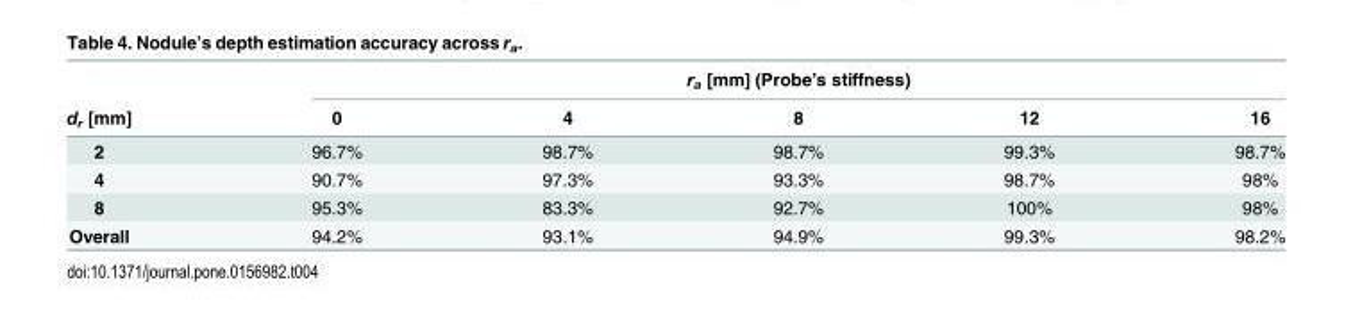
<table><thead><tr><td rowspan="2">d<sub>r</sub> [mm]</td><td colspan="5">r<sub>a</sub> [mm] (Probe’s stiffness)</td></tr><tr><td>0</td><td>4</td><td>8</td><td>12</td><td>16</td></tr></thead><tbody><tr><td>2</td><td>96.7%</td><td>98.7%</td><td>98.7%</td><td>99.3%</td><td>98.7%</td></tr><tr><td>4</td><td>90.7%</td><td>97.3%</td><td>93.3%</td><td>98.7%</td><td>98%</td></tr><tr><td>8</td><td>95.3%</td><td>83.3%</td><td>92.7%</td><td>100%</td><td>98%</td></tr><tr><td>Overall</td><td>94.2%</td><td>93.1%</td><td>94.9%</td><td>99.3%</td><td>98.2%</td></tr></tbody></table>